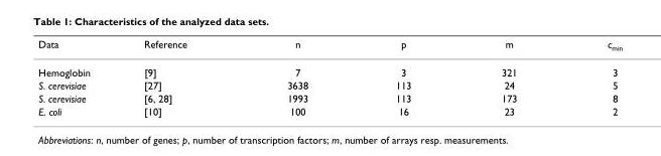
<table><thead><tr><td>Data</td><td>Reference</td><td>n</td><td>p</td><td>m</td><td>c<sub>min</sub></td></tr></thead><tbody><tr><td>Hemoglobin</td><td>[9]</td><td>7</td><td>3</td><td>321</td><td>3</td></tr><tr><td>S. cerevisiae</td><td>[27]</td><td>3638</td><td>113</td><td>24</td><td>5</td></tr><tr><td>S. cerevisiae</td><td>[6, 28]</td><td>1993</td><td>113</td><td>173</td><td>8</td></tr><tr><td>E. coli</td><td>[10]</td><td>100</td><td>16</td><td>23</td><td>2</td></tr></tbody></table>